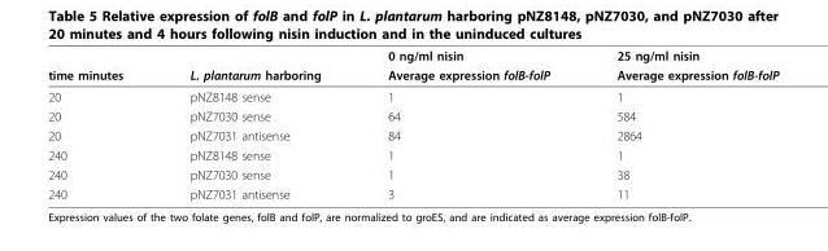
<table><thead><tr><td rowspan="2">time minutes</td><td rowspan="2">L. plantarum harboring</td><td rowspan="2">0 ng/ml nisin Average expression folB-folP</td><td rowspan="2">25 ng/ml nisin Average expression folB-folP</td></tr><tr></tr></thead><tbody><tr><td>20</td><td>pNZ8148 sense</td><td>1</td><td>1</td></tr><tr><td>20</td><td>pNZ7030 sense</td><td>64</td><td>584</td></tr><tr><td>20</td><td>pNZ7031 antisense</td><td>84</td><td>2864</td></tr><tr><td>240</td><td>pNZ8148 sense</td><td>1</td><td>1</td></tr><tr><td>240</td><td>pNZ7030 sense</td><td>1</td><td>38</td></tr><tr><td>240</td><td>pNZ7031 antisense</td><td>3</td><td>11</td></tr></tbody></table>